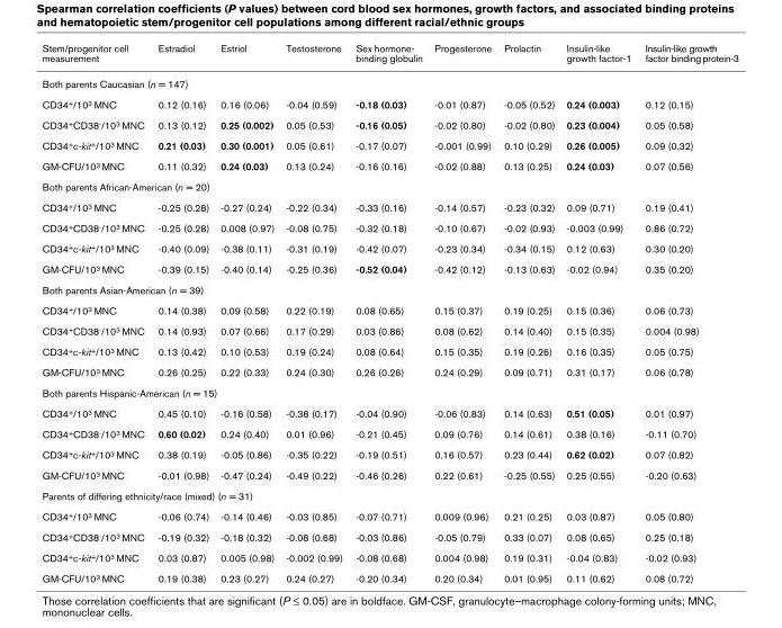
<table><thead><tr><td>Stem/progenitor cell measurement</td><td>Estradiol</td><td>Estriol</td><td>Testosterone</td><td>Sex hormone- binding globulin</td><td>Progesterone</td><td>Prolactin</td><td>Insulin-like growth factor-1</td><td>Insulin-like growth factor binding protein-3</td></tr></thead><tbody><tr><td colspan="9">Both parents Caucasian (n = 147)</td></tr><tr><td>CD34<sup>+</sup>/10<sup>3</sup> MNC</td><td>0.12 (0.16)</td><td>0.16 (0.06)</td><td>-0.04 (0.59)</td><td>-0.18 (0.03)</td><td>-0.01 (0.87)</td><td>-0.05 (0.52)</td><td>0.24 (0.003)</td><td>0.12 (0.15)</td></tr><tr><td>CD34<sup>+</sup>CD38<sup>-</sup>/10<sup>3</sup> MNC</td><td>0.13 (0.12)</td><td>0.25 (0.002)</td><td>0.05 (0.53)</td><td>-0.16 (0.05)</td><td>-0.02 (0.80)</td><td>-0.02 (0.80)</td><td>0.23 (0.004)</td><td>0.05 (0.58)</td></tr><tr><td>CD34<sup>+</sup>c-kit<sup>+</sup>/10<sup>3</sup> MNC</td><td>0.21 (0.03)</td><td>0.30 (0.001)</td><td>0.05 (0.61)</td><td>-0.17 (0.07)</td><td>-0.001 (0.99)</td><td>0.10 (0.29)</td><td>0.26 (0.005)</td><td>0.09 (0.32)</td></tr><tr><td>GM-CFU/10<sup>3</sup> MNC</td><td>0.11 (0.32)</td><td>0.24 (0.03)</td><td>0.13 (0.24)</td><td>-0.16 (0.16)</td><td>-0.02 (0.88)</td><td>0.13 (0.25)</td><td>0.24 (0.03)</td><td>0.07 (0.56)</td></tr><tr><td colspan="9">Both parents African-American (n = 20)</td></tr><tr><td>CD34<sup>+</sup>/10<sup>3</sup> MNC</td><td>-0.25 (0.28)</td><td>-0.27 (0.24)</td><td>-0.22 (0.34)</td><td>-0.33 (0.16)</td><td>-0.14 (0.57)</td><td>-0.23 (0.32)</td><td>0.09 (0.71)</td><td>0.19 (0.41)</td></tr><tr><td>CD34<sup>+</sup>CD38<sup>-</sup>/10<sup>3</sup> MNC</td><td>-0.25 (0.28)</td><td>0.008 (0.97)</td><td>-0.08 (0.75)</td><td>-0.32 (0.18)</td><td>-0.10 (0.67)</td><td>-0.02 (0.93)</td><td>-0.003 (0.99)</td><td>0.86 (0.72)</td></tr><tr><td>CD34<sup>+</sup>c-kit<sup>+</sup>/10<sup>3</sup> MNC</td><td>-0.40 (0.09)</td><td>-0.38 (0.11)</td><td>-0.31 (0.19)</td><td>-0.42 (0.07)</td><td>-0.23 (0.34)</td><td>-0.34 (0.15)</td><td>0.12 (0.63)</td><td>0.30 (0.20)</td></tr><tr><td>GM-CFU/10<sup>3</sup> MNC</td><td>-0.39 (0.15)</td><td>-0.40 (0.14)</td><td>-0.25 (0.36)</td><td>-0.52 (0.04)</td><td>-0.42 (0.12)</td><td>-0.13 (0.63)</td><td>-0.02 (0.94)</td><td>0.35 (0.20)</td></tr><tr><td colspan="9">Both parents Asian-American (n = 39)</td></tr><tr><td>CD34<sup>+</sup>/10<sup>3</sup> MNC</td><td>0.14 (0.38)</td><td>0.09 (0.58)</td><td>0.22 (0.19)</td><td>0.08 (0.65)</td><td>0.15 (0.37)</td><td>0.19 (0.25)</td><td>0.15 (0.36)</td><td>0.06 (0.73)</td></tr><tr><td>CD34<sup>+</sup>CD38<sup>-</sup>/10<sup>3</sup> MNC</td><td>0.14 (0.93)</td><td>0.07 (0.66)</td><td>0.17 (0.29)</td><td>0.03 (0.86)</td><td>0.08 (0.62)</td><td>0.14 (0.40)</td><td>0.15 (0.35)</td><td>0.004 (0.98)</td></tr><tr><td>CD34<sup>+</sup>c-kit<sup>+</sup>/10<sup>3</sup> MNC</td><td>0.13 (0.42)</td><td>0.10 (0.53)</td><td>0.19 (0.24)</td><td>0.08 (0.64)</td><td>0.15 (0.35)</td><td>0.19 (0.26)</td><td>0.16 (0.35)</td><td>0.05 (0.75)</td></tr><tr><td>GM-CFU/10<sup>3</sup> MNC</td><td>0.26 (0.25)</td><td>0.22 (0.33)</td><td>0.24 (0.30)</td><td>0.26 (0.26)</td><td>0.24 (0.29)</td><td>0.09 (0.71)</td><td>0.31 (0.17)</td><td>0.06 (0.78)</td></tr><tr><td colspan="9">Both parents Hispanic-American (n = 15)</td></tr><tr><td>CD34<sup>+</sup>/10<sup>3</sup> MNC</td><td>0.45 (0.10)</td><td>-0.16 (0.58)</td><td>-0.38 (0.17)</td><td>-0.04 (0.90)</td><td>-0.06 (0.83)</td><td>0.14 (0.63)</td><td>0.51 (0.05)</td><td>0.01 (0.97)</td></tr><tr><td>CD34<sup>+</sup>CD38<sup>-</sup>/10<sup>3</sup> MNC</td><td>0.60 (0.02)</td><td>0.24 (0.40)</td><td>0.01 (0.96)</td><td>-0.21 (0.45)</td><td>0.09 (0.76)</td><td>0.14 (0.61)</td><td>0.38 (0.16)</td><td>-0.11 (0.70)</td></tr><tr><td>CD34<sup>+</sup>c-kit<sup>+</sup>/10<sup>3</sup> MNC</td><td>0.38 (0.19)</td><td>-0.05 (0.86)</td><td>-0.35 (0.22)</td><td>-0.19 (0.51)</td><td>0.16 (0.57)</td><td>0.23 (0.44)</td><td>0.62 (0.02)</td><td>0.07 (0.82)</td></tr><tr><td>GM-CFU/10<sup>3</sup> MNC</td><td>-0.01 (0.98)</td><td>-0.47 (0.24)</td><td>-0.49 (0.22)</td><td>-0.46 (0.26)</td><td>0.22 (0.61)</td><td>-0.25 (0.55)</td><td>0.25 (0.55)</td><td>-0.20 (0.63)</td></tr><tr><td colspan="9">Parents of differing ethnicity/race (mixed) (n = 31)</td></tr><tr><td>CD34<sup>+</sup>/10<sup>3</sup> MNC</td><td>-0.06 (0.74)</td><td>-0.14 (0.46)</td><td>-0.03 (0.85)</td><td>-0.07 (0.71)</td><td>0.009 (0.96)</td><td>0.21 (0.25)</td><td>0.03 (0.87)</td><td>0.05 (0.80)</td></tr><tr><td>CD34<sup>+</sup>CD38<sup>-</sup>/10<sup>3</sup> MNC</td><td>-0.19 (0.32)</td><td>-0.18 (0.32)</td><td>-0.08 (0.68)</td><td>-0.03 (0.86)</td><td>-0.05 (0.79)</td><td>0.33 (0.07)</td><td>0.08 (0.65)</td><td>0.25 (0.18)</td></tr><tr><td>CD34<sup>+</sup>c-kit<sup>+</sup>/10<sup>3</sup> MNC</td><td>0.03 (0.87)</td><td>0.005 (0.98)</td><td>-0.002 (0.99)</td><td>-0.08 (0.68)</td><td>0.004 (0.98)</td><td>0.19 (0.31)</td><td>-0.04 (0.83)</td><td>-0.02 (0.93)</td></tr><tr><td>GM-CFU/10<sup>3</sup> MNC</td><td>0.19 (0.38)</td><td>0.23 (0.27)</td><td>0.24 (0.27)</td><td>-0.20 (0.34)</td><td>0.20 (0.34)</td><td>0.01 (0.95)</td><td>0.11 (0.62)</td><td>0.08 (0.72)</td></tr></tbody></table>